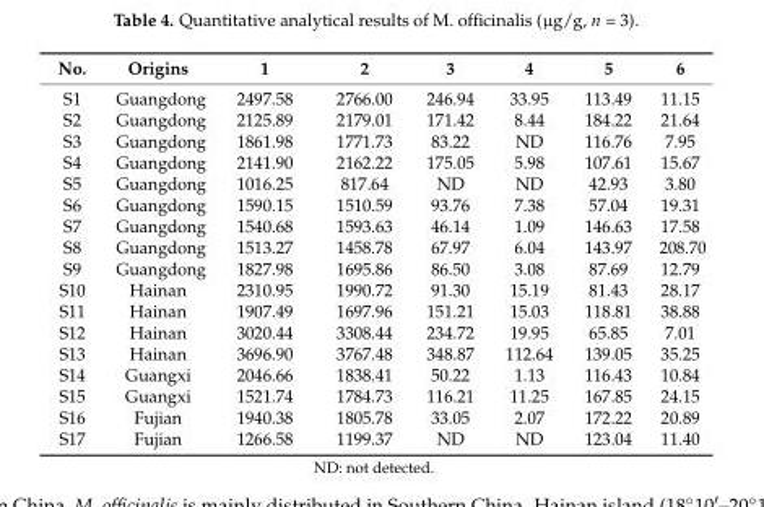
<table><thead><tr><td>No.</td><td>Origins</td><td>1</td><td>2</td><td>3</td><td>4</td><td>5</td><td>6</td></tr></thead><tbody><tr><td>S1</td><td>Guangdong</td><td>2497.58</td><td>2766.00</td><td>246.94</td><td>33.95</td><td>113.49</td><td>11.15</td></tr><tr><td>S2</td><td>Guangdong</td><td>2125.89</td><td>2179.01</td><td>171.42</td><td>8.44</td><td>184.22</td><td>21.64</td></tr><tr><td>S3</td><td>Guangdong</td><td>1861.98</td><td>1771.73</td><td>83.22</td><td>ND</td><td>116.76</td><td>7.95</td></tr><tr><td>S4</td><td>Guangdong</td><td>2141.90</td><td>2162.22</td><td>175.05</td><td>5.98</td><td>107.61</td><td>15.67</td></tr><tr><td>S5</td><td>Guangdong</td><td>1016.25</td><td>817.64</td><td>ND</td><td>ND</td><td>42.93</td><td>3.80</td></tr><tr><td>S6</td><td>Guangdong</td><td>1590.15</td><td>1510.59</td><td>93.76</td><td>7.38</td><td>57.04</td><td>19.31</td></tr><tr><td>S7</td><td>Guangdong</td><td>1540.68</td><td>1593.63</td><td>46.14</td><td>1.09</td><td>146.63</td><td>17.58</td></tr><tr><td>S8</td><td>Guangdong</td><td>1513.27</td><td>1458.78</td><td>67.97</td><td>6.04</td><td>143.97</td><td>208.70</td></tr><tr><td>S9</td><td>Guangdong</td><td>1827.98</td><td>1695.86</td><td>86.50</td><td>3.08</td><td>87.69</td><td>12.79</td></tr><tr><td>S10</td><td>Hainan</td><td>2310.95</td><td>1990.72</td><td>91.30</td><td>15.19</td><td>81.43</td><td>28.17</td></tr><tr><td>S11</td><td>Hainan</td><td>1907.49</td><td>1697.96</td><td>151.21</td><td>15.03</td><td>118.81</td><td>38.88</td></tr><tr><td>S12</td><td>Hainan</td><td>3020.44</td><td>3308.44</td><td>234.72</td><td>19.95</td><td>65.85</td><td>7.01</td></tr><tr><td>S13</td><td>Hainan</td><td>3696.90</td><td>3767.48</td><td>348.87</td><td>112.64</td><td>139.05</td><td>35.25</td></tr><tr><td>S14</td><td>Guangxi</td><td>2046.66</td><td>1838.41</td><td>50.22</td><td>1.13</td><td>116.43</td><td>10.84</td></tr><tr><td>S15</td><td>Guangxi</td><td>1521.74</td><td>1784.73</td><td>116.21</td><td>11.25</td><td>167.85</td><td>24.15</td></tr><tr><td>S16</td><td>Fujian</td><td>1940.38</td><td>1805.78</td><td>33.05</td><td>2.07</td><td>172.22</td><td>20.89</td></tr><tr><td>S17</td><td>Fujian</td><td>1266.58</td><td>1199.37</td><td>ND</td><td>ND</td><td>123.04</td><td>11.40</td></tr></tbody></table>